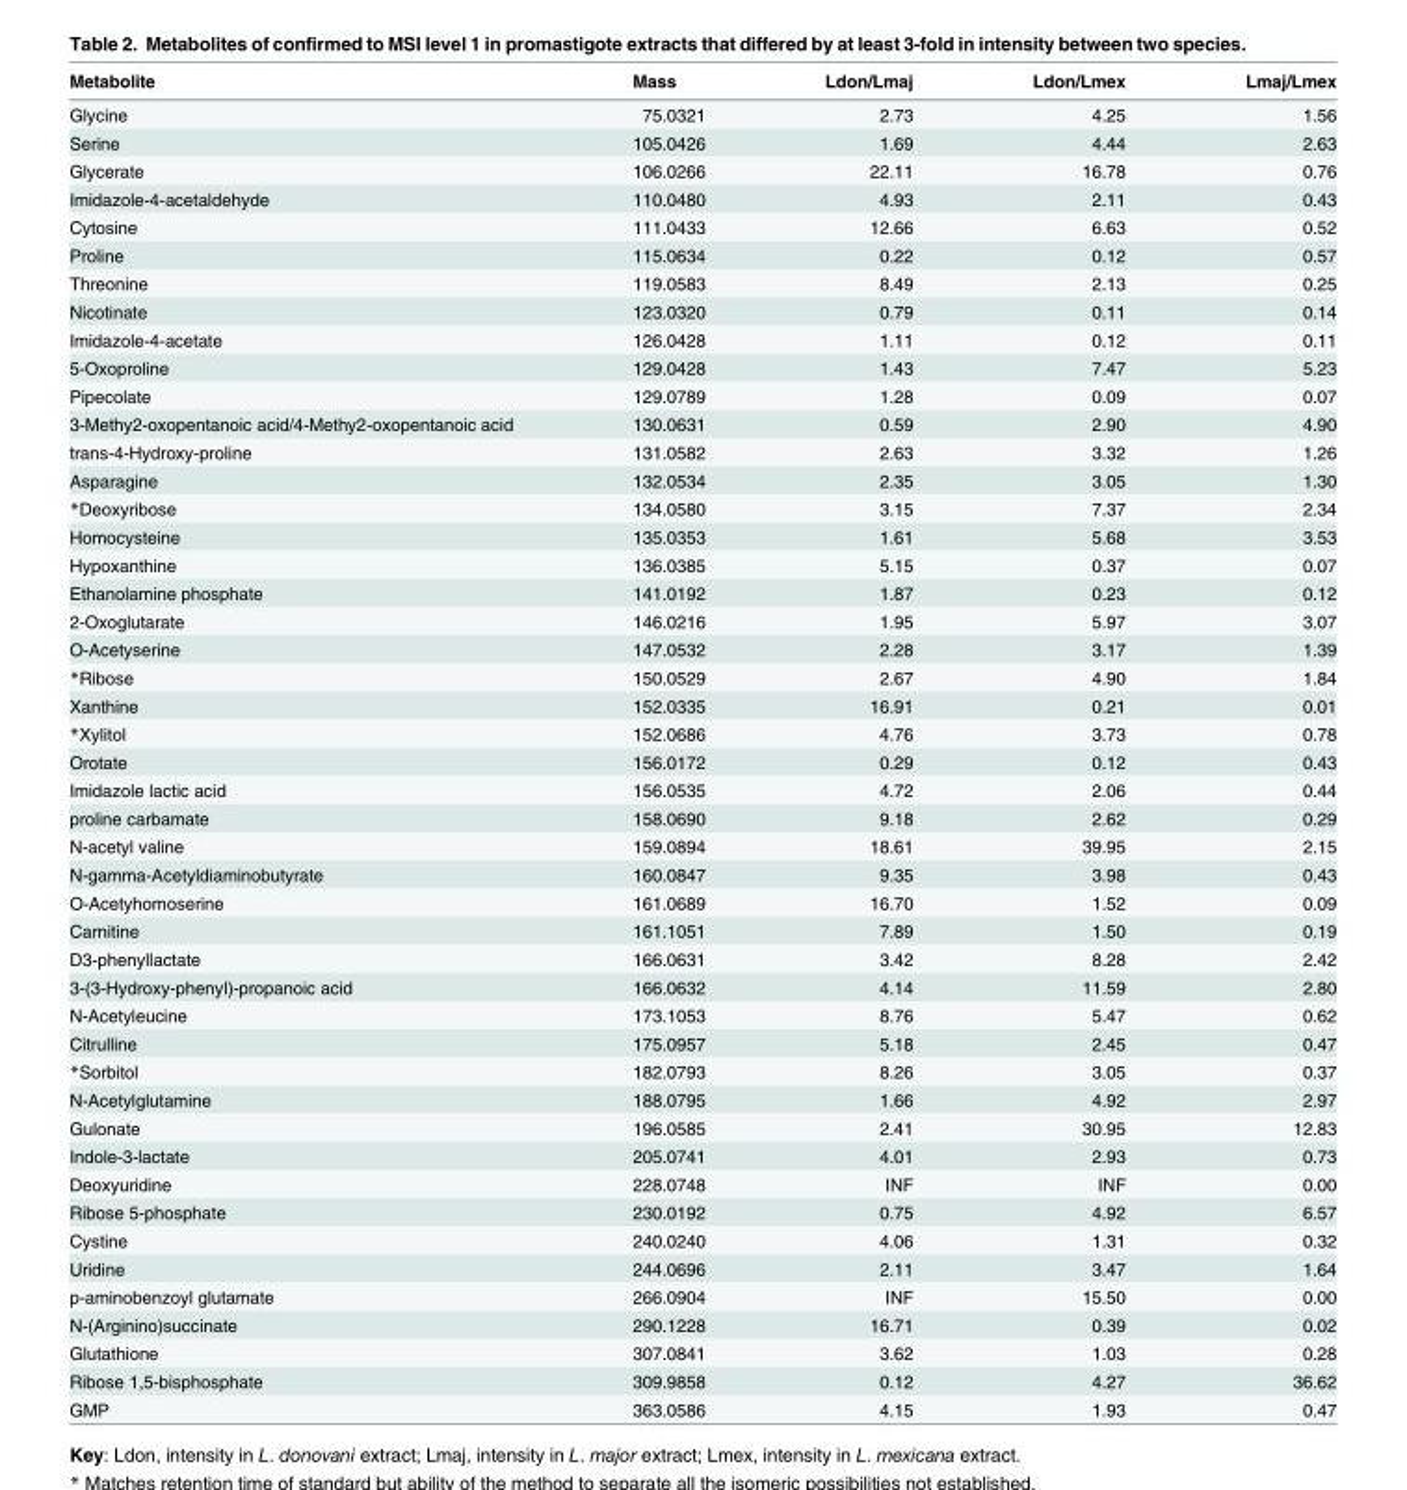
<table><thead><tr><td>Metabolite</td><td>Mass</td><td>Ldon/Lmaj</td><td>Ldon/Lmex</td><td>Lmaj/Lmex</td></tr></thead><tbody><tr><td>Glycine</td><td>75.0321</td><td>2.73</td><td>4.25</td><td>1.56</td></tr><tr><td>Serine</td><td>105.0426</td><td>1.69</td><td>4.44</td><td>2.63</td></tr><tr><td>Glycerate</td><td>106.0266</td><td>22.11</td><td>16.78</td><td>0.76</td></tr><tr><td>Imidazole-4-acetaldehyde</td><td>110.0480</td><td>4.93</td><td>2.11</td><td>0.43</td></tr><tr><td>Cytosine</td><td>111.0433</td><td>12.66</td><td>6.63</td><td>0.52</td></tr><tr><td>Proline</td><td>115.0634</td><td>0.22</td><td>0.12</td><td>0.57</td></tr><tr><td>Threonine</td><td>119.0583</td><td>8.49</td><td>2.13</td><td>0.25</td></tr><tr><td>Nicotinate</td><td>123.0320</td><td>0.79</td><td>0.11</td><td>0.14</td></tr><tr><td>Imidazole-4-acetate</td><td>126.0428</td><td>1.11</td><td>0.12</td><td>0.11</td></tr><tr><td>5-Oxoproline</td><td>129.0428</td><td>1.43</td><td>7.47</td><td>5.23</td></tr><tr><td>Pipecolate</td><td>129.0789</td><td>1.28</td><td>0.09</td><td>0.07</td></tr><tr><td>3-Methy2-oxopentanoic acid/4-Methy2-oxopentanoic acid</td><td>130.0631</td><td>0.59</td><td>2.90</td><td>4.90</td></tr><tr><td>trans-4-Hydroxy-proline</td><td>131.0582</td><td>2.63</td><td>3.32</td><td>1.26</td></tr><tr><td>Asparagine</td><td>132.0534</td><td>2.35</td><td>3.05</td><td>1.30</td></tr><tr><td>*Deoxyribose</td><td>134.0580</td><td>3.15</td><td>7.37</td><td>2.34</td></tr><tr><td>Homocysteine</td><td>135.0353</td><td>1.61</td><td>5.68</td><td>3.53</td></tr><tr><td>Hypoxanthine</td><td>136.0385</td><td>5.15</td><td>0.37</td><td>0.07</td></tr><tr><td>Ethanolamine phosphate</td><td>141.0192</td><td>1.87</td><td>0.23</td><td>0.12</td></tr><tr><td>2-Oxoglutarate</td><td>146.0216</td><td>1.95</td><td>5.97</td><td>3.07</td></tr><tr><td>O-Acetyserine</td><td>147.0532</td><td>2.28</td><td>3.17</td><td>1.39</td></tr><tr><td>*Ribose</td><td>150.0529</td><td>2.67</td><td>4.90</td><td>1.84</td></tr><tr><td>Xanthine</td><td>152.0335</td><td>16.91</td><td>0.21</td><td>0.01</td></tr><tr><td>*Xylitol</td><td>152.0686</td><td>4.76</td><td>3.73</td><td>0.78</td></tr><tr><td>Orotate</td><td>156.0172</td><td>0.29</td><td>0.12</td><td>0.43</td></tr><tr><td>Imidazole lactic acid</td><td>156.0535</td><td>4.72</td><td>2.06</td><td>0.44</td></tr><tr><td>proline carbamate</td><td>158.0690</td><td>9.18</td><td>2.62</td><td>0.29</td></tr><tr><td>N-acetyl valine</td><td>159.0894</td><td>18.61</td><td>39.95</td><td>2.15</td></tr><tr><td>N-gamma-Acetyldiaminobutyrate</td><td>160.0847</td><td>9.35</td><td>3.98</td><td>0.43</td></tr><tr><td>O-Acetyhomoserine</td><td>161.0689</td><td>16.70</td><td>1.52</td><td>0.09</td></tr><tr><td>Carnitine</td><td>161.1051</td><td>7.89</td><td>1.50</td><td>0.19</td></tr><tr><td>D3-phenyllactate</td><td>166.0631</td><td>3.42</td><td>8.28</td><td>2.42</td></tr><tr><td>3-(3-Hydroxy-phenyl)-propanoic acid</td><td>166.0632</td><td>4.14</td><td>11.59</td><td>2.80</td></tr><tr><td>N-Acetyleucine</td><td>173.1053</td><td>8.76</td><td>5.47</td><td>0.62</td></tr><tr><td>Citrulline</td><td>175.0957</td><td>5.18</td><td>2.45</td><td>0.47</td></tr><tr><td>*Sorbitol</td><td>182.0793</td><td>8.26</td><td>3.05</td><td>0.37</td></tr><tr><td>N-Acetylglutamine</td><td>188.0795</td><td>1.66</td><td>4.92</td><td>2.97</td></tr><tr><td>Gulonate</td><td>196.0585</td><td>2.41</td><td>30.95</td><td>12.83</td></tr><tr><td>Indole-3-lactate</td><td>205.0741</td><td>4.01</td><td>2.93</td><td>0.73</td></tr><tr><td>Deoxyuridine</td><td>228.0748</td><td>INF</td><td>INF</td><td>0.00</td></tr><tr><td>Ribose 5-phosphate</td><td>230.0192</td><td>0.75</td><td>4.92</td><td>6.57</td></tr><tr><td>Cystine</td><td>240.0240</td><td>4.06</td><td>1.31</td><td>0.32</td></tr><tr><td>Uridine</td><td>244.0696</td><td>2.11</td><td>3.47</td><td>1.64</td></tr><tr><td>p-aminobenzoyl glutamate</td><td>266.0904</td><td>INF</td><td>15.50</td><td>0.00</td></tr><tr><td>N-(Arginino)succinate</td><td>290.1228</td><td>16.71</td><td>0.39</td><td>0.02</td></tr><tr><td>Glutathione</td><td>307.0841</td><td>3.62</td><td>1.03</td><td>0.28</td></tr><tr><td>Ribose 1,5-bisphosphate</td><td>309.9858</td><td>0.12</td><td>4.27</td><td>36.62</td></tr><tr><td>GMP</td><td>363.0586</td><td>4.15</td><td>1.93</td><td>0.47</td></tr></tbody></table>